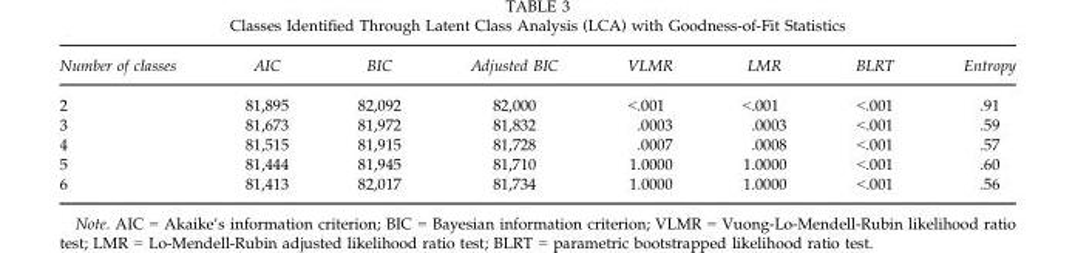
<table><thead><tr><td>Number of classes</td><td>AIC</td><td>BIC</td><td>Adjusted BIC</td><td>VLMR</td><td>LMR</td><td>BLRT</td><td>Entropy</td></tr></thead><tbody><tr><td>2</td><td>81,895</td><td>82,092</td><td>82,000</td><td>&lt;.001</td><td>&lt;.001</td><td>&lt;.001</td><td>.91</td></tr><tr><td>3</td><td>81,673</td><td>81,972</td><td>81,832</td><td>.0003</td><td>.0003</td><td>&lt;.001</td><td>.59</td></tr><tr><td>4</td><td>81,515</td><td>81,915</td><td>81,728</td><td>.0007</td><td>.0008</td><td>&lt;.001</td><td>.57</td></tr><tr><td>5</td><td>81,444</td><td>81,945</td><td>81,710</td><td>1.0000</td><td>1.0000</td><td>&lt;.001</td><td>.60</td></tr><tr><td>6</td><td>81,413</td><td>82,017</td><td>81,734</td><td>1.0000</td><td>1.0000</td><td>&lt;.001</td><td>.56</td></tr></tbody></table>